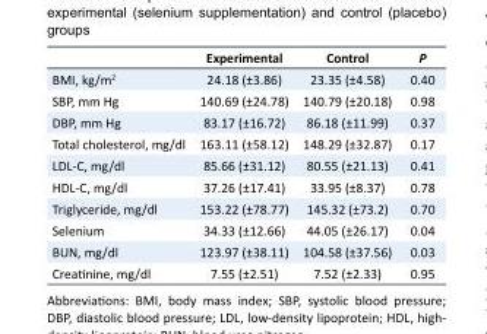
<table><thead><tr><td></td><td>Experimental</td><td>Control</td><td>P</td></tr></thead><tbody><tr><td>BMI, kg/m<sup>2</sup></td><td>24.18 (±3.86)</td><td>23.35 (±4.58)</td><td>0.40</td></tr><tr><td>SBP, mm Hg</td><td>140.69 (±24.78)</td><td>140.79 (±20.18)</td><td>0.98</td></tr><tr><td>DBP, mm Hg</td><td>83.17 (±16.72)</td><td>86.18 (±11.99)</td><td>0.37</td></tr><tr><td>Total cholesterol, mg/dl</td><td>163.11 (±58.12)</td><td>148.29 (±32.87)</td><td>0.17</td></tr><tr><td>LDL-C, mg/dl</td><td>85.66 (±31.12)</td><td>80.55 (±21.13)</td><td>0.41</td></tr><tr><td>HDL-C, mg/dl</td><td>37.26 (±17.41)</td><td>33.95 (±8.37)</td><td>0.78</td></tr><tr><td>Triglyceride, mg/dl</td><td>153.22 (±78.77)</td><td>145.32 (±73.2)</td><td>0.70</td></tr><tr><td>Selenium</td><td>34.33 (±12.66)</td><td>44.05 (±26.17)</td><td>0.04</td></tr><tr><td>BUN, mg/dl</td><td>123.97 (±38.11)</td><td>104.58 (±37.56)</td><td>0.03</td></tr><tr><td>Creatinine, mg/dl</td><td>7.55 (±2.51)</td><td>7.52 (±2.33)</td><td>0.95</td></tr></tbody></table>